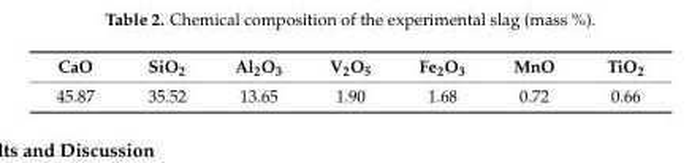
<table><thead><tr><td>CaO</td><td>SiO<sub>2</sub></td><td>Al<sub>2</sub>O<sub>3</sub></td><td>V<sub>2</sub>O<sub>5</sub></td><td>Fe<sub>2</sub>O<sub>3</sub></td><td>MnO</td><td>TiO<sub>2</sub></td></tr></thead><tbody><tr><td>45.87</td><td>35.52</td><td>13.65</td><td>1.90</td><td>1.68</td><td>0.72</td><td>0.66</td></tr></tbody></table>